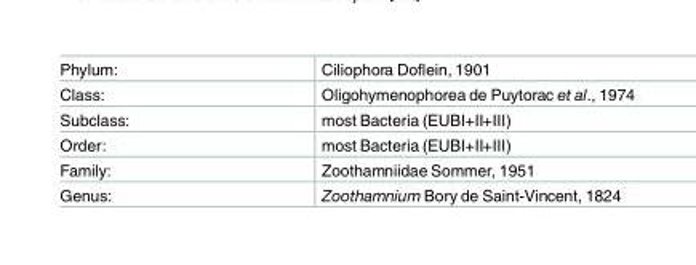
<table><tbody><tr><td>Phylum:</td><td>Ciliophora Doflein, 1901</td></tr><tr><td>Class:</td><td>Oligohymenophorea de Puytorac et al., 1974</td></tr><tr><td>Subclass:</td><td>most Bacteria (EUBI+II+III)</td></tr><tr><td>Order:</td><td>most Bacteria (EUBI+II+III)</td></tr><tr><td>Family:</td><td>Zoothamniidae Sommer, 1951</td></tr><tr><td>Genus:</td><td>Zoothamnium Bory de Saint-Vincent, 1824</td></tr></tbody></table>